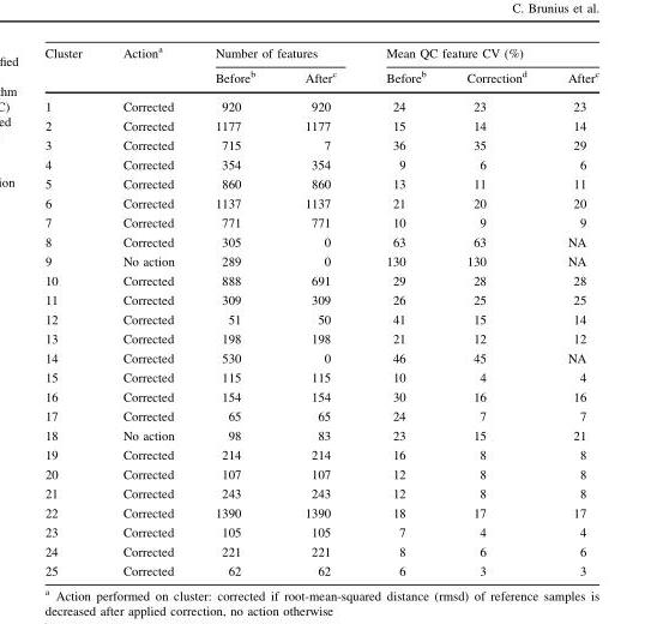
<table><thead><tr><td rowspan="2">Cluster</td><td rowspan="2">Action<sup>a</sup></td><td colspan="2">Number of features</td><td colspan="3">Mean QC feature CV (%)</td></tr><tr><td>Before<sup>b</sup></td><td>After<sup>c</sup></td><td>Before<sup>b</sup></td><td>Correction<sup>d</sup></td><td>After<sup>c</sup></td></tr></thead><tbody><tr><td>1</td><td>Corrected</td><td>920</td><td>920</td><td>24</td><td>23</td><td>23</td></tr><tr><td>2</td><td>Corrected</td><td>1177</td><td>1177</td><td>15</td><td>14</td><td>14</td></tr><tr><td>3</td><td>Corrected</td><td>715</td><td>7</td><td>36</td><td>35</td><td>29</td></tr><tr><td>4</td><td>Corrected</td><td>354</td><td>354</td><td>9</td><td>6</td><td>6</td></tr><tr><td>5</td><td>Corrected</td><td>860</td><td>860</td><td>13</td><td>11</td><td>11</td></tr><tr><td>6</td><td>Corrected</td><td>1137</td><td>1137</td><td>21</td><td>20</td><td>20</td></tr><tr><td>7</td><td>Corrected</td><td>771</td><td>771</td><td>10</td><td>9</td><td>9</td></tr><tr><td>8</td><td>Corrected</td><td>305</td><td>0</td><td>63</td><td>63</td><td>NA</td></tr><tr><td>9</td><td>No action</td><td>289</td><td>0</td><td>130</td><td>130</td><td>NA</td></tr><tr><td>10</td><td>Corrected</td><td>888</td><td>691</td><td>29</td><td>28</td><td>28</td></tr><tr><td>11</td><td>Corrected</td><td>309</td><td>309</td><td>26</td><td>25</td><td>25</td></tr><tr><td>12</td><td>Corrected</td><td>51</td><td>50</td><td>41</td><td>15</td><td>14</td></tr><tr><td>13</td><td>Corrected</td><td>198</td><td>198</td><td>21</td><td>12</td><td>12</td></tr><tr><td>14</td><td>Corrected</td><td>530</td><td>0</td><td>46</td><td>45</td><td>NA</td></tr><tr><td>15</td><td>Corrected</td><td>115</td><td>115</td><td>10</td><td>4</td><td>4</td></tr><tr><td>16</td><td>Corrected</td><td>154</td><td>154</td><td>30</td><td>16</td><td>16</td></tr><tr><td>17</td><td>Corrected</td><td>65</td><td>65</td><td>24</td><td>7</td><td>7</td></tr><tr><td>18</td><td>No action</td><td>98</td><td>83</td><td>23</td><td>15</td><td>21</td></tr><tr><td>19</td><td>Corrected</td><td>214</td><td>214</td><td>16</td><td>8</td><td>8</td></tr><tr><td>20</td><td>Corrected</td><td>107</td><td>107</td><td>12</td><td>8</td><td>8</td></tr><tr><td>21</td><td>Corrected</td><td>243</td><td>243</td><td>12</td><td>8</td><td>8</td></tr><tr><td>22</td><td>Corrected</td><td>1390</td><td>1390</td><td>18</td><td>17</td><td>17</td></tr><tr><td>23</td><td>Corrected</td><td>105</td><td>105</td><td>7</td><td>4</td><td>4</td></tr><tr><td>24</td><td>Corrected</td><td>221</td><td>221</td><td>8</td><td>6</td><td>6</td></tr><tr><td>25</td><td>Corrected</td><td>62</td><td>62</td><td>6</td><td>3</td><td>3</td></tr></tbody></table>